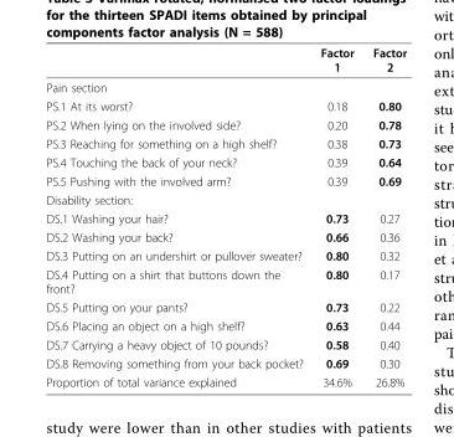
<table><thead><tr><td></td><td>Factor 1</td><td>Factor 2</td></tr></thead><tbody><tr><td colspan="3">Pain section</td></tr><tr><td>PS.1 At its worst?</td><td>0.18</td><td>0.80</td></tr><tr><td>PS.2 When lying on the involved side?</td><td>0.20</td><td>0.78</td></tr><tr><td>PS.3 Reaching for something on a high shelf?</td><td>0.38</td><td>0.73</td></tr><tr><td>PS.4 Touching the back of your neck?</td><td>0.39</td><td>0.64</td></tr><tr><td>PS.5 Pushing with the involved arm?</td><td>0.39</td><td>0.69</td></tr><tr><td colspan="3">Disability section:</td></tr><tr><td>DS.1 Washing your hair?</td><td>0.73</td><td>0.27</td></tr><tr><td>DS.2 Washing your back?</td><td>0.66</td><td>0.36</td></tr><tr><td>DS.3 Putting on an undershirt or pullover sweater?</td><td>0.80</td><td>0.32</td></tr><tr><td>DS.4 Putting on a shirt that buttons down the front?</td><td>0.80</td><td>0.17</td></tr><tr><td>DS.5 Putting on your pants?</td><td>0.73</td><td>0.22</td></tr><tr><td>DS.6 Placing an object on a high shelf?</td><td>0.63</td><td>0.44</td></tr><tr><td>DS.7 Carrying a heavy object of 10 pounds?</td><td>0.58</td><td>0.40</td></tr><tr><td>DS.8 Removing something from your back pocket?</td><td>0.69</td><td>0.30</td></tr><tr><td>Proportion of total variance explained</td><td>34.6%</td><td>26.8%</td></tr></tbody></table>